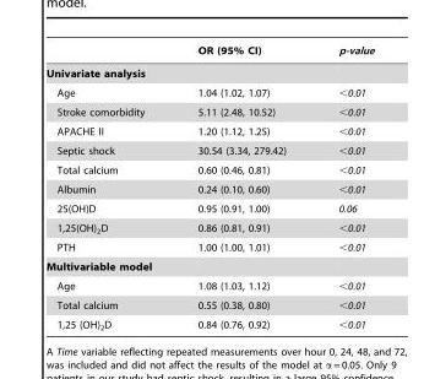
<table><thead><tr><td></td><td>OR (95% CI)</td><td>p-value</td></tr></thead><tbody><tr><td colspan="3">Univariate analysis</td></tr><tr><td>Age</td><td>1.04 (1.02, 1.07)</td><td>&lt;0.01</td></tr><tr><td>Stroke comorbidity</td><td>5.11 (2.48, 10.52)</td><td>&lt;0.01</td></tr><tr><td>APACHE II</td><td>1.20 (1.12, 1.25)</td><td>&lt;0.01</td></tr><tr><td>Septic shock</td><td>30.54 (3.34, 279.42)</td><td>&lt;0.01</td></tr><tr><td>Total calcium</td><td>0.60 (0.46, 0.81)</td><td>&lt;0.01</td></tr><tr><td>Albumin</td><td>0.24 (0.10, 0.60)</td><td>&lt;0.01</td></tr><tr><td>25(OH)D</td><td>0.95 (0.91, 1.00)</td><td>0.06</td></tr><tr><td>1,25(OH)<sub>2</sub>D</td><td>0.86 (0.81, 0.91)</td><td>&lt;0.01</td></tr><tr><td>PTH</td><td>1.00 (1.00, 1.01)</td><td>&lt;0.01</td></tr><tr><td colspan="3">Multivariable model</td></tr><tr><td>Age</td><td>1.08 (1.03, 1.12)</td><td>&lt;0.01</td></tr><tr><td>Total calcium</td><td>0.55 (0.38, 0.80)</td><td>&lt;0.01</td></tr><tr><td>1,25 (OH)<sub>2</sub>D</td><td>0.84 (0.76, 0.92)</td><td>&lt;0.01</td></tr></tbody></table>